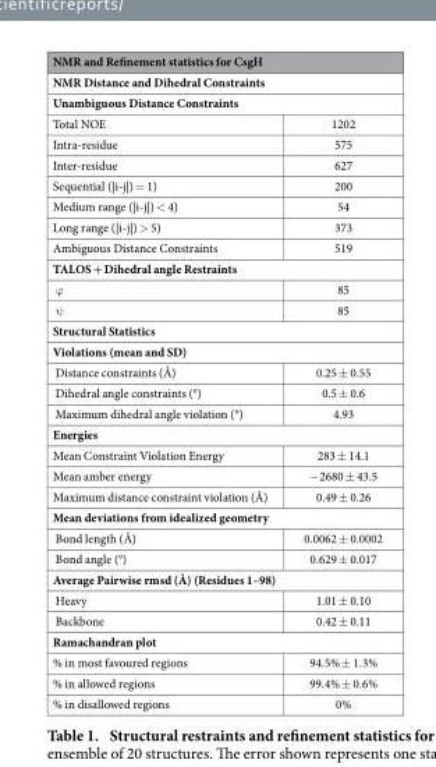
<table><thead><tr><td rowspan="3" colspan="2">NMR and Refinement statistics for CsgH NMR Distance and Dihedral Constraints Unambiguous Distance Constraints</td></tr><tr></tr><tr></tr><tr><td>Total NOE</td><td>1202</td></tr></thead><tbody><tr><td>Intra-residue</td><td>575</td></tr><tr><td>Inter-residue</td><td>627</td></tr><tr><td>Sequential (|i-j|) = 1)</td><td>200</td></tr><tr><td>Medium range (|i-j|) &lt; 4)</td><td>54</td></tr><tr><td>Long range (|i-j|) &gt; 5)</td><td>373</td></tr><tr><td>Ambiguous Distance Constraints</td><td>519</td></tr><tr><td colspan="2">TALOS + Dihedral angle Restraints</td></tr><tr><td>ϕ</td><td>85</td></tr><tr><td>ψ</td><td>85</td></tr><tr><td colspan="2">Structural Statistics</td></tr><tr><td colspan="2">Violations (mean and SD)</td></tr><tr><td>Distance constraints (Å)</td><td>0.25 ± 0.55</td></tr><tr><td>Dihedral angle constraints (°)</td><td>0.5 ± 0.6</td></tr><tr><td>Maximum dihedral angle violation (°)</td><td>4.93</td></tr><tr><td colspan="2">Energies</td></tr><tr><td>Mean Constraint Violation Energy</td><td>283 ± 14.1</td></tr><tr><td>Mean amber energy</td><td>− 2680 ± 43.5</td></tr><tr><td>Maximum distance constraint violation (Å)</td><td>0.49 ± 0.26</td></tr><tr><td colspan="2">Mean deviations from idealized geometry</td></tr><tr><td>Bond length (Å)</td><td>0.0062 ± 0.0002</td></tr><tr><td>Bond angle (°)</td><td>0.629 ± 0.017</td></tr><tr><td colspan="2">Average Pairwise rmsd (Å) (Residues 1–98)</td></tr><tr><td>Heavy</td><td>1.01 ± 0.10</td></tr><tr><td>Backbone</td><td>0.42 ± 0.11</td></tr><tr><td colspan="2">Ramachandran plot</td></tr><tr><td>% in most favoured regions</td><td>94.5% ± 1.3%</td></tr><tr><td>% in allowed regions</td><td>99.4% ± 0.6%</td></tr><tr><td>% in disallowed regions</td><td>0%</td></tr></tbody></table>